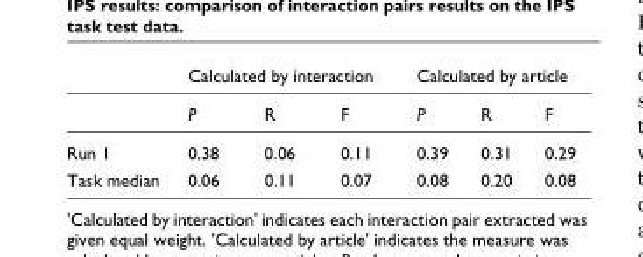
<table><thead><tr><td rowspan="2"></td><td colspan="3">Calculated by interaction</td><td colspan="3">Calculated by article</td></tr><tr><td>P</td><td>R</td><td>F</td><td>P</td><td>R</td><td>F</td></tr></thead><tbody><tr><td>Run 1</td><td>0.38</td><td>0.06</td><td>0.11</td><td>0.39</td><td>0.31</td><td>0.29</td></tr><tr><td>Task median</td><td>0.06</td><td>0.11</td><td>0.07</td><td>0.08</td><td>0.20</td><td>0.08</td></tr></tbody></table>